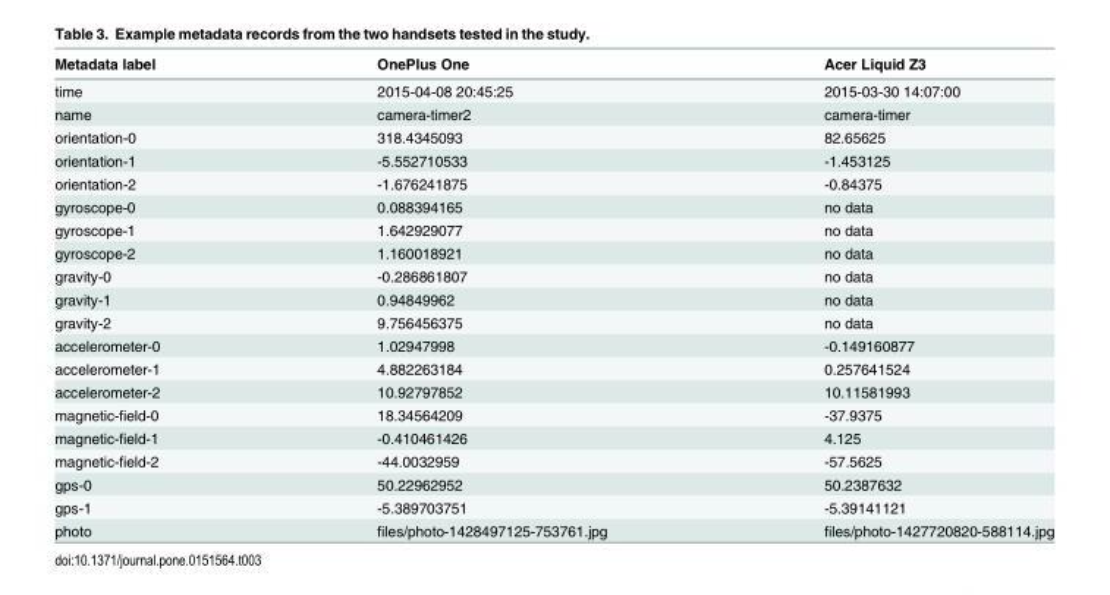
<table><thead><tr><td>Metadata label</td><td>OnePlus One</td><td>Acer Liquid Z3</td></tr></thead><tbody><tr><td>time</td><td>2015-04-08 20:45:25</td><td>2015-03-30 14:07:00</td></tr><tr><td>name</td><td>camera-timer2</td><td>camera-timer</td></tr><tr><td>orientation-0</td><td>318.4345093</td><td>82.65625</td></tr><tr><td>orientation-1</td><td>-5.552710533</td><td>-1.453125</td></tr><tr><td>orientation-2</td><td>-1.676241875</td><td>-0.84375</td></tr><tr><td>gyroscope-0</td><td>0.088394165</td><td>no data</td></tr><tr><td>gyroscope-1</td><td>1.642929077</td><td>no data</td></tr><tr><td>gyroscope-2</td><td>1.160018921</td><td>no data</td></tr><tr><td>gravity-0</td><td>-0.286861807</td><td>no data</td></tr><tr><td>gravity-1</td><td>0.94849962</td><td>no data</td></tr><tr><td>gravity-2</td><td>9.756456375</td><td>no data</td></tr><tr><td>accelerometer-0</td><td>1.02947998</td><td>-0.149160877</td></tr><tr><td>accelerometer-1</td><td>4.882263184</td><td>0.257641524</td></tr><tr><td>accelerometer-2</td><td>10.92797852</td><td>10.11581993</td></tr><tr><td>magnetic-field-0</td><td>18.34564209</td><td>-37.9375</td></tr><tr><td>magnetic-field-1</td><td>-0.410461426</td><td>4.125</td></tr><tr><td>magnetic-field-2</td><td>-44.0032959</td><td>-57.5625</td></tr><tr><td>gps-0</td><td>50.22962952</td><td>50.2387632</td></tr><tr><td>gps-1</td><td>-5.389703751</td><td>-5.39141121</td></tr><tr><td>photo</td><td>files/photo-1428497125-753761.jpg</td><td>files/photo-1427720820-588114.jpg</td></tr></tbody></table>